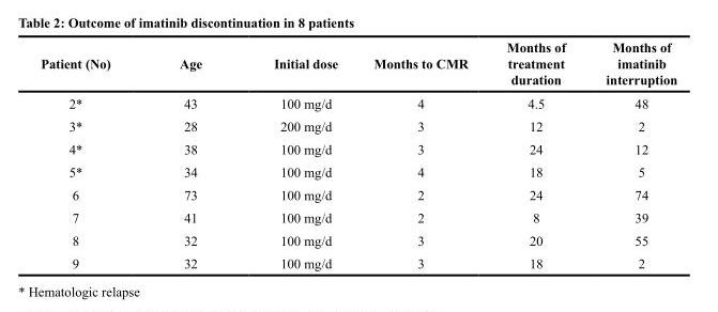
<table><thead><tr><td>Patient (No)</td><td>Age</td><td>Initial dose</td><td>Months to CMR</td><td>Months of treatment duration</td><td>Months of imatinib interruption</td></tr></thead><tbody><tr><td>2*</td><td>43</td><td>100 mg/d</td><td>4</td><td>4.5</td><td>48</td></tr><tr><td>3*</td><td>28</td><td>200 mg/d</td><td>3</td><td>12</td><td>2</td></tr><tr><td>4*</td><td>38</td><td>100 mg/d</td><td>3</td><td>24</td><td>12</td></tr><tr><td>5*</td><td>34</td><td>100 mg/d</td><td>4</td><td>18</td><td>5</td></tr><tr><td>6</td><td>73</td><td>100 mg/d</td><td>2</td><td>24</td><td>74</td></tr><tr><td>7</td><td>41</td><td>100 mg/d</td><td>2</td><td>8</td><td>39</td></tr><tr><td>8</td><td>32</td><td>100 mg/d</td><td>3</td><td>20</td><td>55</td></tr><tr><td>9</td><td>32</td><td>100 mg/d</td><td>3</td><td>18</td><td>2</td></tr></tbody></table>